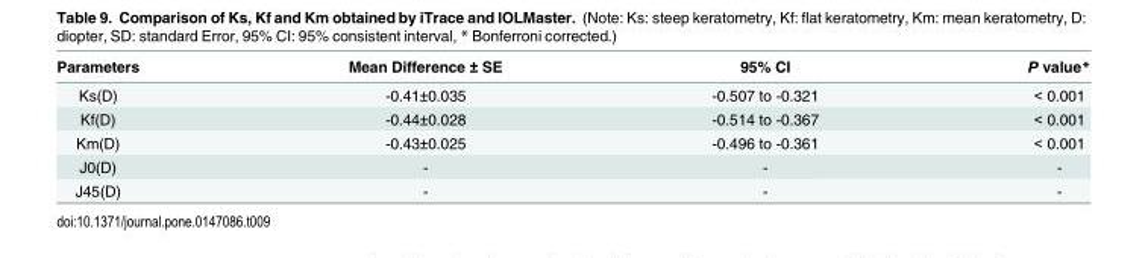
<table><thead><tr><td>Parameters</td><td>Mean Difference ± SE</td><td>95% CI</td><td>P value*</td></tr></thead><tbody><tr><td>Ks(D)</td><td>-0.41±0.035</td><td>-0.507 to -0.321</td><td>&lt; 0.001</td></tr><tr><td>Kf(D)</td><td>-0.44±0.028</td><td>-0.514 to -0.367</td><td>&lt; 0.001</td></tr><tr><td>Km(D)</td><td>-0.43±0.025</td><td>-0.496 to -0.361</td><td>&lt; 0.001</td></tr><tr><td>J0(D)</td><td>-</td><td>-</td><td>-</td></tr><tr><td>J45(D)</td><td>-</td><td>-</td><td>-</td></tr></tbody></table>